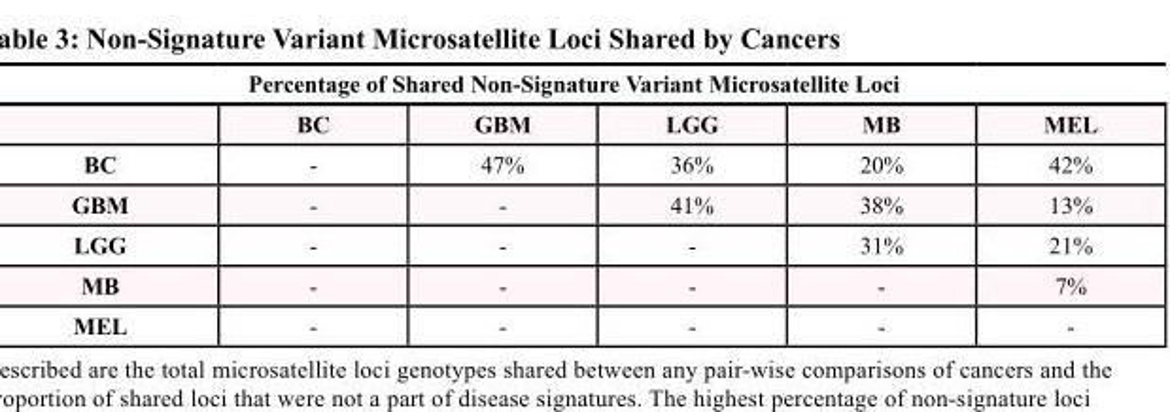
<table><thead><tr><td colspan="6">Percentage of Shared Non-Signature Variant Microsatellite Loci</td></tr><tr><td></td><td>BC</td><td>GBM</td><td>LGG</td><td>MB</td><td>MEL</td></tr></thead><tbody><tr><td>BC</td><td>-</td><td>47%</td><td>36%</td><td>20%</td><td>42%</td></tr><tr><td>GBM</td><td>-</td><td>-</td><td>41%</td><td>38%</td><td>13%</td></tr><tr><td>LGG</td><td>-</td><td>-</td><td>-</td><td>31%</td><td>21%</td></tr><tr><td>MB</td><td>-</td><td>-</td><td>-</td><td>-</td><td>7%</td></tr><tr><td>MEL</td><td>-</td><td>-</td><td>-</td><td>-</td><td>-</td></tr></tbody></table>